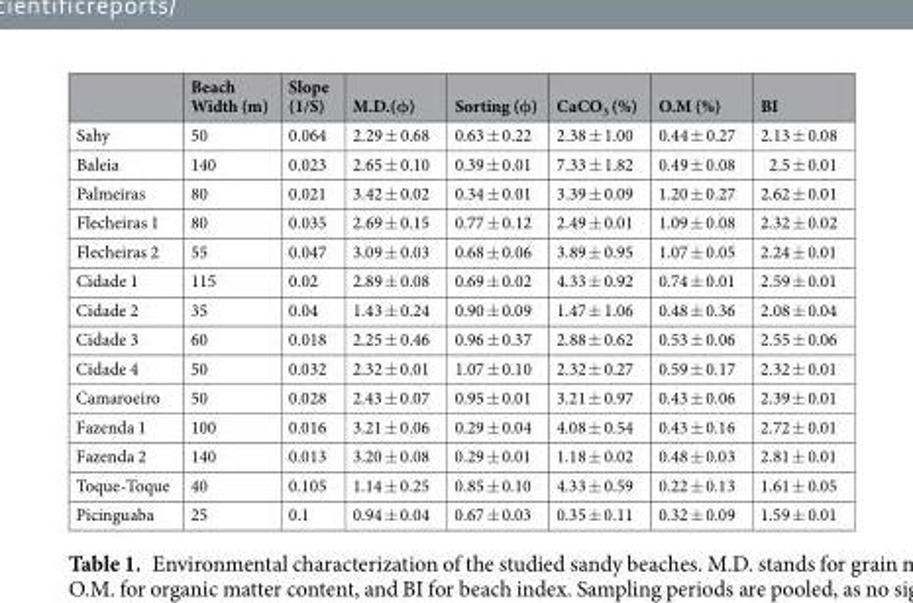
<table><thead><tr><td></td><td>Beach Width (m)</td><td>Slope (1/S)</td><td>M.D.(φ)</td><td>Sorting (φ)</td><td>CaCO<sub>3</sub> (%)</td><td>O.M (%)</td><td>BI</td></tr></thead><tbody><tr><td>Sahy</td><td>50</td><td>0.064</td><td>2.29 ± 0.68</td><td>0.63 ± 0.22</td><td>2.38 ± 1.00</td><td>0.44 ± 0.27</td><td>2.13 ± 0.08</td></tr><tr><td>Baleia</td><td>140</td><td>0.023</td><td>2.65 ± 0.10</td><td>0.39 ± 0.01</td><td>7.33 ± 1.82</td><td>0.49 ± 0.08</td><td>2.5 ± 0.01</td></tr><tr><td>Palmeiras</td><td>80</td><td>0.021</td><td>3.42 ± 0.02</td><td>0.34 ± 0.01</td><td>3.39 ± 0.09</td><td>1.20 ± 0.27</td><td>2.62 ± 0.01</td></tr><tr><td>Flecheiras 1</td><td>80</td><td>0.035</td><td>2.69 ± 0.15</td><td>0.77 ± 0.12</td><td>2.49 ± 0.01</td><td>1.09 ± 0.08</td><td>2.32 ± 0.02</td></tr><tr><td>Flecheiras 2</td><td>55</td><td>0.047</td><td>3.09 ± 0.03</td><td>0.68 ± 0.06</td><td>3.89 ± 0.95</td><td>1.07 ± 0.05</td><td>2.24 ± 0.01</td></tr><tr><td>Cidade 1</td><td>115</td><td>0.02</td><td>2.89 ± 0.08</td><td>0.69 ± 0.02</td><td>4.33 ± 0.92</td><td>0.74 ± 0.01</td><td>2.59 ± 0.01</td></tr><tr><td>Cidade 2</td><td>35</td><td>0.04</td><td>1.43 ± 0.24</td><td>0.90 ± 0.09</td><td>1.47 ± 1.06</td><td>0.48 ± 0.36</td><td>2.08 ± 0.04</td></tr><tr><td>Cidade 3</td><td>60</td><td>0.018</td><td>2.25 ± 0.46</td><td>0.96 ± 0.37</td><td>2.88 ± 0.62</td><td>0.53 ± 0.06</td><td>2.55 ± 0.06</td></tr><tr><td>Cidade 4</td><td>50</td><td>0.032</td><td>2.32 ± 0.01</td><td>1.07 ± 0.10</td><td>2.32 ± 0.27</td><td>0.59 ± 0.17</td><td>2.32 ± 0.01</td></tr><tr><td>Camaroeiro</td><td>50</td><td>0.028</td><td>2.43 ± 0.07</td><td>0.95 ± 0.01</td><td>3.21 ± 0.97</td><td>0.43 ± 0.06</td><td>2.39 ± 0.01</td></tr><tr><td>Fazenda 1</td><td>100</td><td>0.016</td><td>3.21 ± 0.06</td><td>0.29 ± 0.04</td><td>4.08 ± 0.54</td><td>0.43 ± 0.16</td><td>2.72 ± 0.01</td></tr><tr><td>Fazenda 2</td><td>140</td><td>0.013</td><td>3.20 ± 0.08</td><td>0.29 ± 0.01</td><td>1.18 ± 0.02</td><td>0.48 ± 0.03</td><td>2.81 ± 0.01</td></tr><tr><td>Toque-Toque</td><td>40</td><td>0.105</td><td>1.14 ± 0.25</td><td>0.85 ± 0.10</td><td>4.33 ± 0.59</td><td>0.22 ± 0.13</td><td>1.61 ± 0.05</td></tr><tr><td>Picinguaba</td><td>25</td><td>0.1</td><td>0.94 ± 0.04</td><td>0.67 ± 0.03</td><td>0.35 ± 0.11</td><td>0.32 ± 0.09</td><td>1.59 ± 0.01</td></tr></tbody></table>